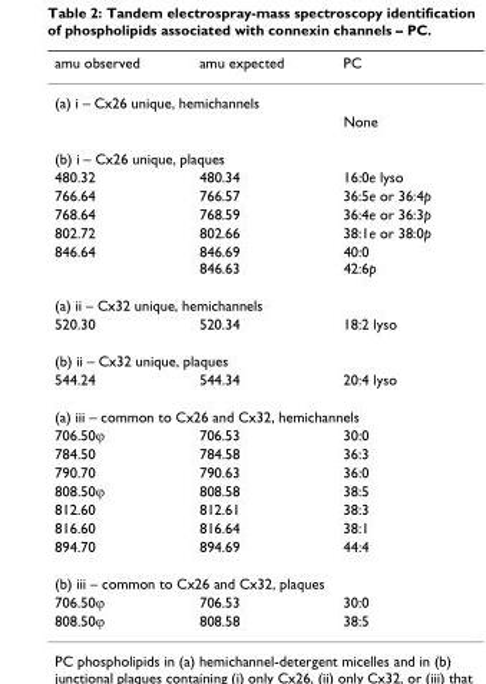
<table><thead><tr><td>amu observed</td><td>amu expected</td><td>PC</td></tr></thead><tbody><tr><td colspan="3">(a) i – Cx26 unique, hemichannels</td></tr><tr><td></td><td></td><td>None</td></tr><tr><td colspan="3">(b) i – Cx26 unique, plaques</td></tr><tr><td>480.32</td><td>480.34</td><td>16:0e lyso</td></tr><tr><td>766.64</td><td>766.57</td><td>36:5e or 36:4p</td></tr><tr><td>768.64</td><td>768.59</td><td>36:4e or 36:3p</td></tr><tr><td>802.72</td><td>802.66</td><td>38:1e or 38:0p</td></tr><tr><td>846.64</td><td>846.69 846.63</td><td>40:0 42:6p</td></tr><tr><td colspan="3">(a) ii – Cx32 unique, hemichannels</td></tr><tr><td>520.30</td><td>520.34</td><td>18:2 lyso</td></tr><tr><td colspan="3">(b) ii – Cx32 unique, plaques</td></tr><tr><td>544.24</td><td>544.34</td><td>20:4 lyso</td></tr><tr><td colspan="3">(a) iii – common to Cx26 and Cx32, hemichannels</td></tr><tr><td>706.50ϕ</td><td>706.53</td><td>30:0</td></tr><tr><td>784.50</td><td>784.58</td><td>36:3</td></tr><tr><td>790.70</td><td>790.63</td><td>36:0</td></tr><tr><td>808.50ϕ</td><td>808.58</td><td>38:5</td></tr><tr><td>812.60</td><td>812.61</td><td>38:3</td></tr><tr><td>816.60</td><td>816.64</td><td>38:1</td></tr><tr><td>894.70</td><td>894.69</td><td>44:4</td></tr><tr><td colspan="3">(b) iii – common to Cx26 and Cx32, plaques</td></tr><tr><td>706.50ϕ</td><td>706.53</td><td>30:0</td></tr><tr><td>808.50ϕ</td><td>808.58</td><td>38:5</td></tr></tbody></table>